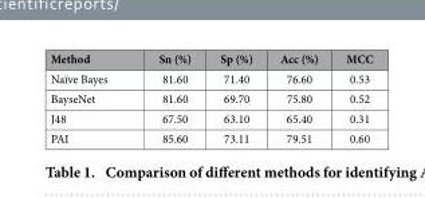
<table><thead><tr><td>Method</td><td>Sn (%)</td><td>Sp (%)</td><td>Acc (%)</td><td>MCC</td></tr></thead><tbody><tr><td>Naïve Bayes</td><td>81.60</td><td>71.40</td><td>76.60</td><td>0.53</td></tr><tr><td>BayseNet</td><td>81.60</td><td>69.70</td><td>75.80</td><td>0.52</td></tr><tr><td>J48</td><td>67.50</td><td>63.10</td><td>65.40</td><td>0.31</td></tr><tr><td>PAI</td><td>85.60</td><td>73.11</td><td>79.51</td><td>0.60</td></tr></tbody></table>